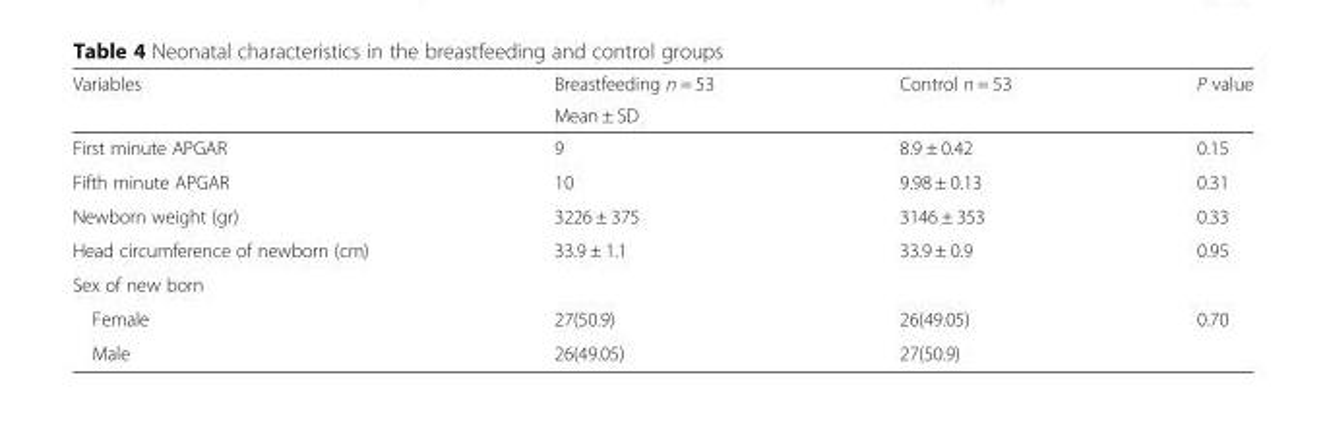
<table><thead><tr><td rowspan="2">Variables</td><td>Breastfeeding n = 53</td><td>Control n = 53</td><td>P value</td></tr><tr><td colspan="3">Mean ± SD</td></tr></thead><tbody><tr><td>First minute APGAR</td><td>9</td><td>8.9 ± 0.42</td><td>0.15</td></tr><tr><td>Fifth minute APGAR</td><td>10</td><td>9.98 ± 0.13</td><td>0.31</td></tr><tr><td>Newborn weight (gr)</td><td>3226 ± 375</td><td>3146 ± 353</td><td>0.33</td></tr><tr><td>Head circumference of newborn (cm)</td><td>33.9 ± 1.1</td><td>33.9 ± 0.9</td><td>0.95</td></tr><tr><td colspan="4">Sex of new born</td></tr><tr><td>Female</td><td>27(50.9)</td><td>26(49.05)</td><td rowspan="2">0.70</td></tr><tr><td>Male</td><td>26(49.05)</td><td>27(50.9)</td></tr></tbody></table>